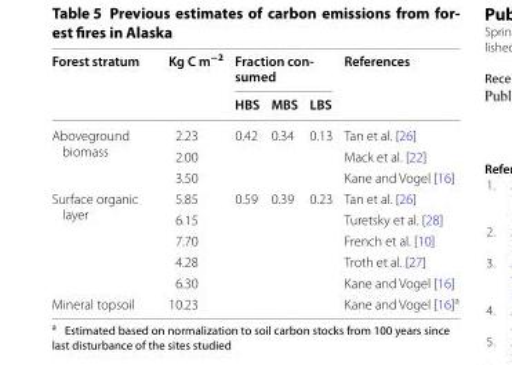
<table><thead><tr><td rowspan="2">Forest stratum</td><td rowspan="2">Kg C m<sup>−2</sup></td><td colspan="3">Fraction con- sumed</td><td rowspan="2">References</td></tr><tr><td>HBS</td><td>MBS</td><td>LBS</td></tr></thead><tbody><tr><td rowspan="3">Aboveground biomass</td><td>2.23</td><td>0.42</td><td>0.34</td><td>0.13</td><td>Tan et al. [26]</td></tr><tr><td>2.00</td><td></td><td></td><td></td><td>Mack et al. [22]</td></tr><tr><td>3.50</td><td></td><td></td><td></td><td>Kane and Vogel [16]</td></tr><tr><td rowspan="5">Surface organic layer</td><td>5.85</td><td>0.59</td><td>0.39</td><td>0.23</td><td>Tan et al. [26]</td></tr><tr><td>6.15</td><td></td><td></td><td></td><td>Turetsky et al. [28]</td></tr><tr><td>7.70</td><td></td><td></td><td></td><td>French et al. [10]</td></tr><tr><td>4.28</td><td></td><td></td><td></td><td>Troth et al. [27]</td></tr><tr><td>6.30</td><td></td><td></td><td></td><td>Kane and Vogel [16]</td></tr><tr><td>Mineral topsoil</td><td>10.23</td><td></td><td></td><td></td><td>Kane and Vogel [16]<sup>a</sup></td></tr></tbody></table>